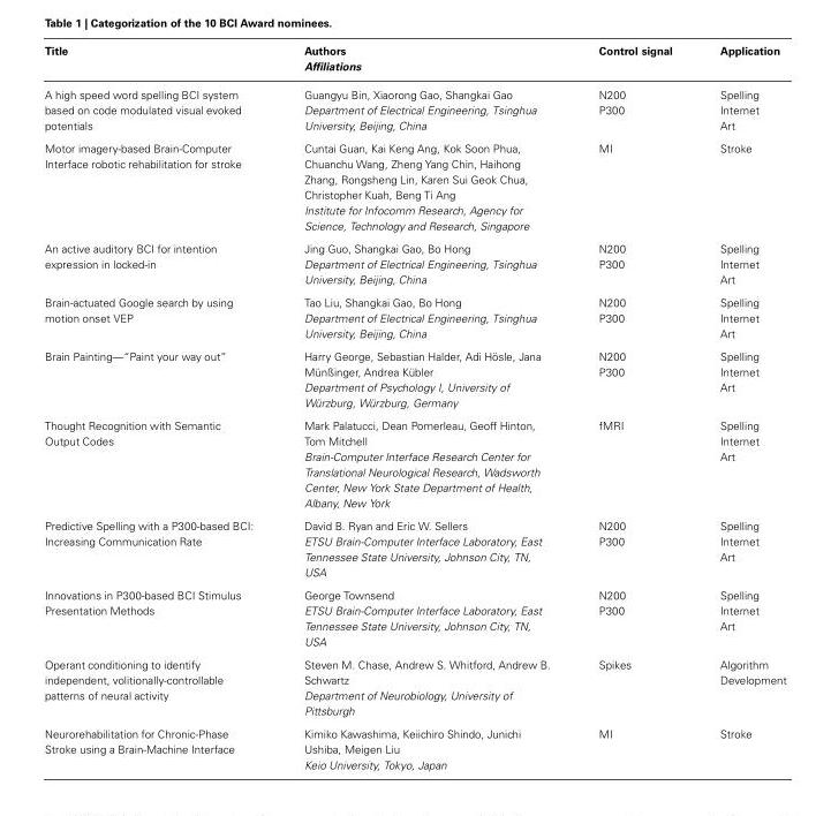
<table><thead><tr><td>Title</td><td>Authors Affiliations</td><td>Control signal</td><td>Application</td></tr></thead><tbody><tr><td>A high speed word spelling BCI system based on code modulated visual evoked potentials</td><td>Guangyu Bin, Xiaorong Gao, Shangkai Gao Department of Electrical Engineering, Tsinghua University, Beijing, China</td><td>N200 P300</td><td>Spelling Internet Art</td></tr><tr><td>Motor imagery-based Brain-Computer Interface robotic rehabilitation for stroke</td><td>Cuntai Guan, Kai Keng Ang, Kok Soon Phua, Chuanchu Wang, Zheng Yang Chin, Haihong Zhang, Rongsheng Lin, Karen Sui Geok Chua, Christopher Kuah, Beng Ti Ang Institute for Infocomm Research, Agency for Science, Technology and Research, Singapore</td><td>MI</td><td>Stroke</td></tr><tr><td>An active auditory BCI for intention expression in locked-in</td><td>Jing Guo, Shangkai Gao, Bo Hong Department of Electrical Engineering, Tsinghua University, Beijing, China</td><td>N200 P300</td><td>Spelling Internet Art</td></tr><tr><td>Brain-actuated Google search by using motion onset VEP</td><td>Tao Liu, Shangkai Gao, Bo Hong Department of Electrical Engineering, Tsinghua University, Beijing, China</td><td>N200 P300</td><td>Spelling Internet Art</td></tr><tr><td>Brain Painting—“Paint your way out”</td><td>Harry George, Sebastian Halder, Adi Hösle, Jana Münßinger, Andrea Kübler Department of Psychology I, University of Würzburg, Würzburg, Germany</td><td>N200 P300</td><td>Spelling Internet Art</td></tr><tr><td>Thought Recognition with Semantic Output Codes</td><td>Mark Palatucci, Dean Pomerleau, Geoff Hinton, Tom Mitchell Brain-Computer Interface Research Center for Translational Neurological Research, Wadsworth Center, New York State Department of Health, Albany, New York</td><td>fMRI</td><td>Spelling Internet Art</td></tr><tr><td>Predictive Spelling with a P300-based BCI: Increasing Communication Rate</td><td>David B. Ryan and Eric W. Sellers ETSU Brain-Computer Interface Laboratory, East Tennessee State University, Johnson City, TN, USA</td><td>N200 P300</td><td>Spelling Internet Art</td></tr><tr><td>Innovations in P300-based BCI Stimulus Presentation Methods</td><td>George Townsend ETSU Brain-Computer Interface Laboratory, East Tennessee State University, Johnson City, TN, USA</td><td>N200 P300</td><td>Spelling Internet Art</td></tr><tr><td>Operant conditioning to identify independent, volitionally-controllable patterns of neural activity</td><td>Steven M. Chase, Andrew S. Whitford, Andrew B. Schwartz Department of Neurobiology, University of Pittsburgh</td><td>Spikes</td><td>Algorithm Development</td></tr><tr><td>Neurorehabilitation for Chronic-Phase Stroke using a Brain-Machine Interface</td><td>Kimiko Kawashima, Keiichiro Shindo, Junichi Ushiba, Meigen Liu Keio University, Tokyo, Japan</td><td>MI</td><td>Stroke</td></tr></tbody></table>